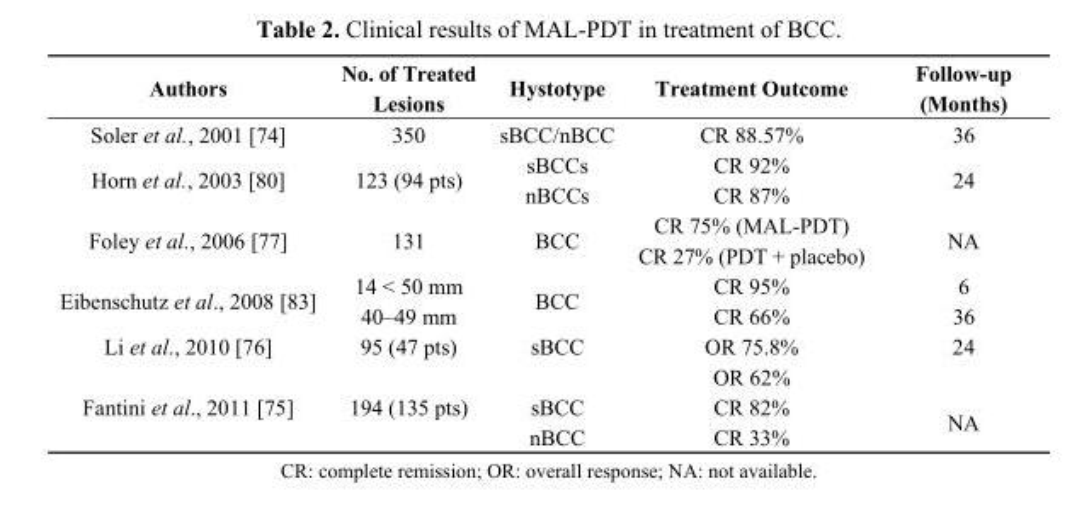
<table><thead><tr><td>Authors</td><td>No. of Treated Lesions</td><td>Hystotype</td><td>Treatment Outcome</td><td>Follow-up (Months)</td></tr></thead><tbody><tr><td>Soler et al., 2001 [74]</td><td>350</td><td>sBCC/nBCC</td><td>CR 88.57%</td><td>36</td></tr><tr><td rowspan="2">Horn et al., 2003 [80]</td><td rowspan="2">123 (94 pts)</td><td>sBCCs</td><td>CR 92%</td><td rowspan="2">24</td></tr><tr><td>nBCCs</td><td>CR 87%</td></tr><tr><td rowspan="2">Foley et al., 2006 [77]</td><td rowspan="2">131</td><td rowspan="2">BCC</td><td>CR 75% (MAL-PDT)</td><td rowspan="2">NA</td></tr><tr><td>CR 27% (PDT + placebo)</td></tr><tr><td rowspan="2">Eibenschutz et al., 2008 [83]</td><td>14 &lt; 50 mm</td><td rowspan="2">BCC</td><td>CR 95%</td><td>6</td></tr><tr><td>40–49 mm</td><td>CR 66%</td><td>36</td></tr><tr><td>Li et al., 2010 [76]</td><td>95 (47 pts)</td><td>sBCC</td><td>OR 75.8%</td><td>24</td></tr><tr><td rowspan="3">Fantini et al., 2011 [75]</td><td rowspan="3">194 (135 pts)</td><td></td><td>OR 62%</td><td></td></tr><tr><td>sBCC</td><td>CR 82%</td><td rowspan="2">NA</td></tr><tr><td>nBCC</td><td>CR 33%</td></tr></tbody></table>